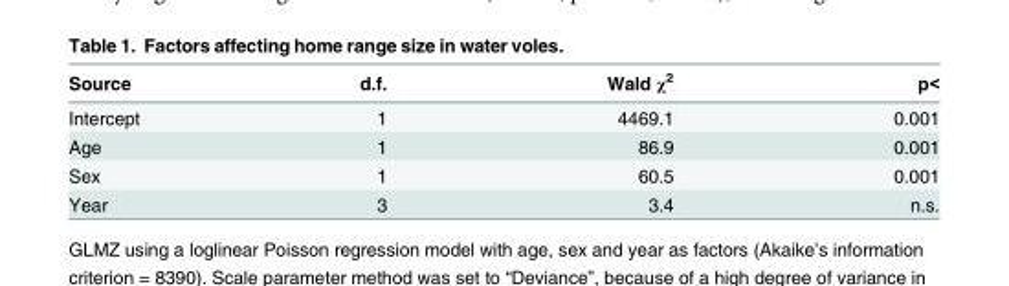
<table><thead><tr><td>Source</td><td>d.f.</td><td>Wald χ<sup>2</sup></td><td>p&lt;</td></tr></thead><tbody><tr><td>Intercept</td><td>1</td><td>4469.1</td><td>0.001</td></tr><tr><td>Age</td><td>1</td><td>86.9</td><td>0.001</td></tr><tr><td>Sex</td><td>1</td><td>60.5</td><td>0.001</td></tr><tr><td>Year</td><td>3</td><td>3.4</td><td>n.s.</td></tr></tbody></table>